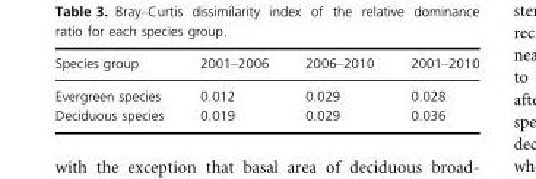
<table><thead><tr><td>Species group</td><td>2001–2006</td><td>2006–2010</td><td>2001–2010</td></tr></thead><tbody><tr><td>Evergreen species</td><td>0.012</td><td>0.029</td><td>0.028</td></tr><tr><td>Deciduous species</td><td>0.019</td><td>0.029</td><td>0.036</td></tr></tbody></table>